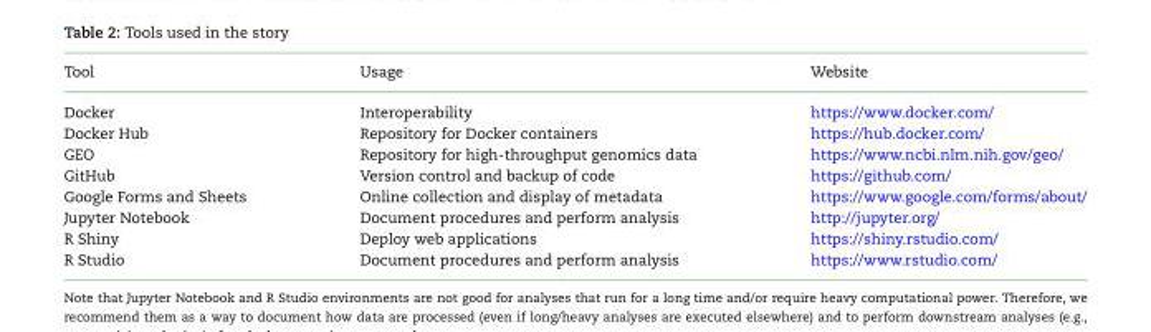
<table><thead><tr><td>Tool</td><td>Usage</td><td>Website</td></tr></thead><tbody><tr><td>Docker</td><td>Interoperability</td><td>https://www.docker.com/</td></tr><tr><td>Docker Hub</td><td>Repository for Docker containers</td><td>https://hub.docker.com/</td></tr><tr><td>GEO</td><td>Repository for high-throughput genomics data</td><td>https://www.ncbi.nlm.nih.gov/geo/</td></tr><tr><td>GitHub</td><td>Version control and backup of code</td><td>https://github.com/</td></tr><tr><td>Google Forms and Sheets</td><td>Online collection and display of metadata</td><td>https://www.google.com/forms/about/</td></tr><tr><td>Jupyter Notebook</td><td>Document procedures and perform analysis</td><td>http://jupyter.org/</td></tr><tr><td>R Shiny</td><td>Deploy web applications</td><td>https://shiny.rstudio.com/</td></tr><tr><td>R Studio</td><td>Document procedures and perform analysis</td><td>https://www.rstudio.com/</td></tr></tbody></table>